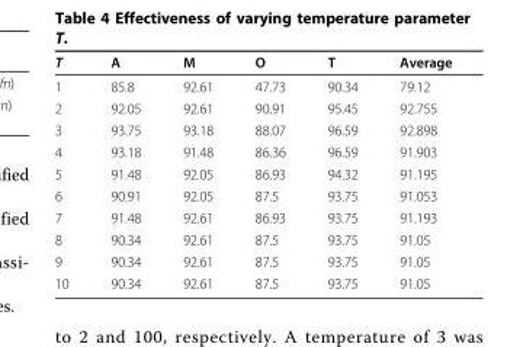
<table><thead><tr><td>T</td><td>A</td><td>M</td><td>O</td><td>T</td><td>Average</td></tr></thead><tbody><tr><td>1</td><td>85.8</td><td>92.61</td><td>47.73</td><td>90.34</td><td>79.12</td></tr><tr><td>2</td><td>92.05</td><td>92.61</td><td>90.91</td><td>95.45</td><td>92.755</td></tr><tr><td>3</td><td>93.75</td><td>93.18</td><td>88.07</td><td>96.59</td><td>92.898</td></tr><tr><td>4</td><td>93.18</td><td>91.48</td><td>86.36</td><td>96.59</td><td>91.903</td></tr><tr><td>5</td><td>91.48</td><td>92.05</td><td>86.93</td><td>94.32</td><td>91.195</td></tr><tr><td>6</td><td>90.91</td><td>92.05</td><td>87.5</td><td>93.75</td><td>91.053</td></tr><tr><td>7</td><td>91.48</td><td>92.61</td><td>86.93</td><td>93.75</td><td>91.193</td></tr><tr><td>8</td><td>90.34</td><td>92.61</td><td>87.5</td><td>93.75</td><td>91.05</td></tr><tr><td>9</td><td>90.34</td><td>92.61</td><td>87.5</td><td>93.75</td><td>91.05</td></tr><tr><td>10</td><td>90.34</td><td>92.61</td><td>87.5</td><td>93.75</td><td>91.05</td></tr></tbody></table>